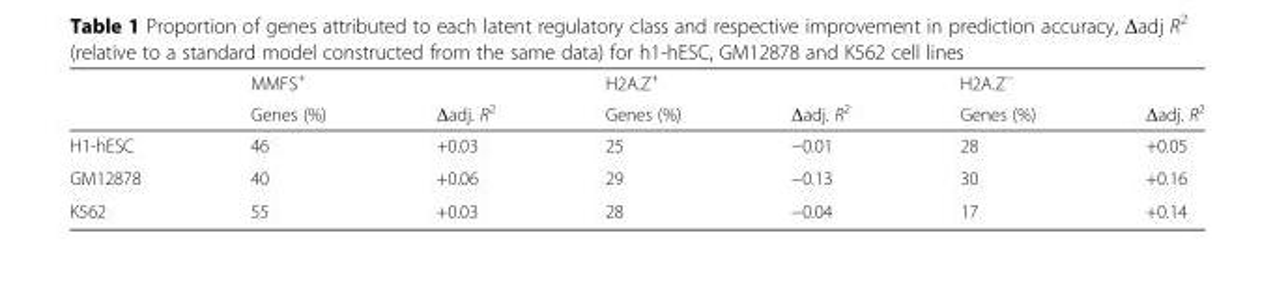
<table><thead><tr><td rowspan="2"></td><td colspan="2">MMFS<sup>+</sup></td><td colspan="2">H2A.Z<sup>+</sup></td><td colspan="2">H2A.Z<sup>−</sup></td></tr><tr><td>Genes (%)</td><td>Δadj. R<sup>2</sup></td><td>Genes (%)</td><td>Δadj. R<sup>2</sup></td><td>Genes (%)</td><td>Δadj. R<sup>2</sup></td></tr></thead><tbody><tr><td>H1-hESC</td><td>46</td><td>+0.03</td><td>25</td><td>−0.01</td><td>28</td><td>+0.05</td></tr><tr><td>GM12878</td><td>40</td><td>+0.06</td><td>29</td><td>−0.13</td><td>30</td><td>+0.16</td></tr><tr><td>K562</td><td>55</td><td>+0.03</td><td>28</td><td>−0.04</td><td>17</td><td>+0.14</td></tr></tbody></table>